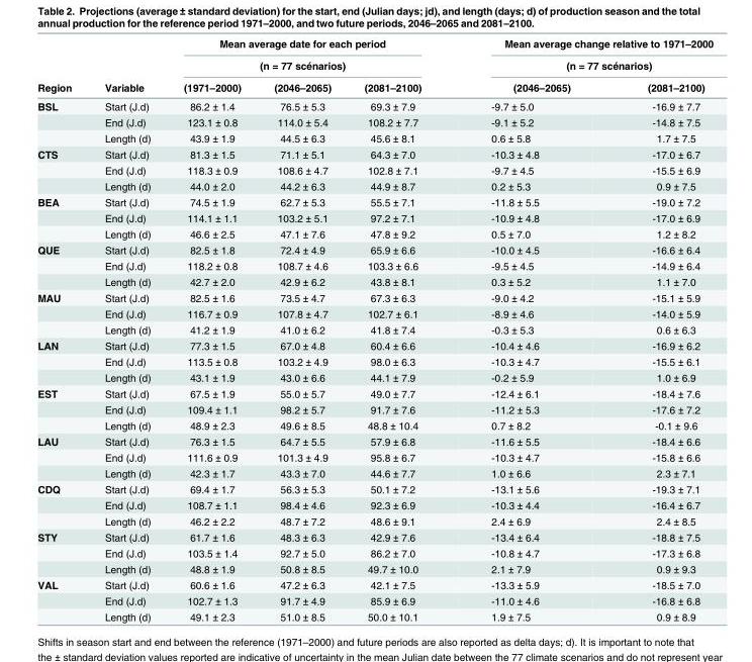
<table><thead><tr><td rowspan="3">Region</td><td rowspan="3">Variable</td><td rowspan="2" colspan="3">Mean average date for each period (n = 77 scénarios)</td><td rowspan="2" colspan="2">Mean average change relative to 1971–2000 (n = 77 scénarios)</td></tr><tr></tr><tr><td>(1971–2000)</td><td>(2046–2065)</td><td>(2081–2100)</td><td>(2046–2065)</td><td>(2081–2100)</td></tr></thead><tbody><tr><td rowspan="3">BSL</td><td>Start (J.d)</td><td>86.2 ± 1.4</td><td>76.5 ± 5.3</td><td>69.3 ± 7.9</td><td>-9.7 ± 5.0</td><td>-16.9 ± 7.7</td></tr><tr><td>End (J.d)</td><td>123.1 ± 0.8</td><td>114.0 ± 5.4</td><td>108.2 ± 7.7</td><td>-9.1 ± 5.2</td><td>-14.8 ± 7.5</td></tr><tr><td>Length (d)</td><td>43.9 ± 1.9</td><td>44.5 ± 6.3</td><td>45.6 ± 8.1</td><td>0.6 ± 5.8</td><td>1.7 ± 7.5</td></tr><tr><td rowspan="3">CTS</td><td>Start (J.d)</td><td>81.3 ± 1.5</td><td>71.1 ± 5.1</td><td>64.3 ± 7.0</td><td>-10.3 ± 4.8</td><td>-17.0 ± 6.7</td></tr><tr><td>End (J.d)</td><td>118.3 ± 0.9</td><td>108.6 ± 4.7</td><td>102.8 ± 7.1</td><td>-9.7 ± 4.5</td><td>-15.5 ± 6.9</td></tr><tr><td>Length (d)</td><td>44.0 ± 2.0</td><td>44.2 ± 6.3</td><td>44.9 ± 8.7</td><td>0.2 ± 5.3</td><td>0.9 ± 7.5</td></tr><tr><td rowspan="3">BEA</td><td>Start (J.d)</td><td>74.5 ± 1.9</td><td>62.7 ± 5.3</td><td>55.5 ± 7.1</td><td>-11.8 ± 5.5</td><td>-19.0 ± 7.2</td></tr><tr><td>End (J.d)</td><td>114.1 ± 1.1</td><td>103.2 ± 5.1</td><td>97.2 ± 7.1</td><td>-10.9 ± 4.8</td><td>-17.0 ± 6.9</td></tr><tr><td>Length (d)</td><td>46.6 ± 2.5</td><td>47.1 ± 7.6</td><td>47.8 ± 9.2</td><td>0.5 ± 7.0</td><td>1.2 ± 8.2</td></tr><tr><td rowspan="3">QUE</td><td>Start (J.d)</td><td>82.5 ± 1.8</td><td>72.4 ± 4.9</td><td>65.9 ± 6.6</td><td>-10.0 ± 4.5</td><td>-16.6 ± 6.4</td></tr><tr><td>End (J.d)</td><td>118.2 ± 0.8</td><td>108.7 ± 4.6</td><td>103.3 ± 6.6</td><td>-9.5 ± 4.5</td><td>-14.9 ± 6.4</td></tr><tr><td>Length (d)</td><td>42.7 ± 2.0</td><td>42.9 ± 6.2</td><td>43.8 ± 8.1</td><td>0.3 ± 5.2</td><td>1.1 ± 7.0</td></tr><tr><td rowspan="3">MAU</td><td>Start (J.d)</td><td>82.5 ± 1.6</td><td>73.5 ± 4.7</td><td>67.3 ± 6.3</td><td>-9.0 ± 4.2</td><td>-15.1 ± 5.9</td></tr><tr><td>End (J.d)</td><td>116.7 ± 0.9</td><td>107.8 ± 4.7</td><td>102.7 ± 6.1</td><td>-8.9 ± 4.6</td><td>-14.0 ± 5.9</td></tr><tr><td>Length (d)</td><td>41.2 ± 1.9</td><td>41.0 ± 6.2</td><td>41.8 ± 7.4</td><td>-0.3 ± 5.3</td><td>0.6 ± 6.3</td></tr><tr><td rowspan="3">LAN</td><td>Start (J.d)</td><td>77.3 ± 1.5</td><td>67.0 ± 4.8</td><td>60.4 ± 6.6</td><td>-10.4 ± 4.6</td><td>-16.9 ± 6.2</td></tr><tr><td>End (J.d)</td><td>113.5 ± 0.8</td><td>103.2 ± 4.9</td><td>98.0 ± 6.3</td><td>-10.3 ± 4.7</td><td>-15.5 ± 6.1</td></tr><tr><td>Length (d)</td><td>43.1 ± 1.9</td><td>43.0 ± 6.6</td><td>44.1 ± 7.9</td><td>-0.2 ± 5.9</td><td>1.0 ± 6.9</td></tr><tr><td rowspan="3">EST</td><td>Start (J.d)</td><td>67.5 ± 1.9</td><td>55.0 ± 5.7</td><td>49.0 ± 7.7</td><td>-12.4 ± 6.1</td><td>-18.4 ± 7.6</td></tr><tr><td>End (J.d)</td><td>109.4 ± 1.1</td><td>98.2 ± 5.7</td><td>91.7 ± 7.6</td><td>-11.2 ± 5.3</td><td>-17.6 ± 7.2</td></tr><tr><td>Length (d)</td><td>48.9 ± 2.3</td><td>49.6 ± 8.5</td><td>48.8 ± 10.4</td><td>0.7 ± 8.2</td><td>-0.1 ± 9.6</td></tr><tr><td rowspan="3">LAU</td><td>Start (J.d)</td><td>76.3 ± 1.5</td><td>64.7 ± 5.5</td><td>57.9 ± 6.8</td><td>-11.6 ± 5.5</td><td>-18.4 ± 6.6</td></tr><tr><td>End (J.d)</td><td>111.6 ± 0.9</td><td>101.3 ± 4.9</td><td>95.8 ± 6.7</td><td>-10.3 ± 4.7</td><td>-15.8 ± 6.6</td></tr><tr><td>Length (d)</td><td>42.3 ± 1.7</td><td>43.3 ± 7.0</td><td>44.6 ± 7.7</td><td>1.0 ± 6.6</td><td>2.3 ± 7.1</td></tr><tr><td rowspan="3">CDQ</td><td>Start (J.d)</td><td>69.4 ± 1.7</td><td>56.3 ± 5.3</td><td>50.1 ± 7.2</td><td>-13.1 ± 5.6</td><td>-19.3 ± 7.1</td></tr><tr><td>End (J.d)</td><td>108.7 ± 1.1</td><td>98.4 ± 4.6</td><td>92.3 ± 6.9</td><td>-10.3 ± 4.4</td><td>-16.4 ± 6.7</td></tr><tr><td>Length (d)</td><td>46.2 ± 2.2</td><td>48.7 ± 7.2</td><td>48.6 ± 9.1</td><td>2.4 ± 6.9</td><td>2.4 ± 8.5</td></tr><tr><td rowspan="3">STY</td><td>Start (J.d)</td><td>61.7 ± 1.6</td><td>48.3 ± 6.3</td><td>42.9 ± 7.6</td><td>-13.4 ± 6.4</td><td>-18.8 ± 7.5</td></tr><tr><td>End (J.d)</td><td>103.5 ± 1.4</td><td>92.7 ± 5.0</td><td>86.2 ± 7.0</td><td>-10.8 ± 4.7</td><td>-17.3 ± 6.8</td></tr><tr><td>Length (d)</td><td>48.8 ± 1.9</td><td>50.8 ± 8.5</td><td>49.7 ± 10.0</td><td>2.1 ± 7.9</td><td>0.9 ± 9.3</td></tr><tr><td rowspan="3">VAL</td><td>Start (J.d)</td><td>60.6 ± 1.6</td><td>47.2 ± 6.3</td><td>42.1 ± 7.5</td><td>-13.3 ± 5.9</td><td>-18.5 ± 7.0</td></tr><tr><td>End (J.d)</td><td>102.7 ± 1.3</td><td>91.7 ± 4.9</td><td>85.9 ± 6.9</td><td>-11.0 ± 4.6</td><td>-16.8 ± 6.8</td></tr><tr><td>Length (d)</td><td>49.1 ± 2.3</td><td>51.0 ± 8.5</td><td>50.0 ± 10.1</td><td>1.9 ± 7.5</td><td>0.9 ± 8.9</td></tr></tbody></table>